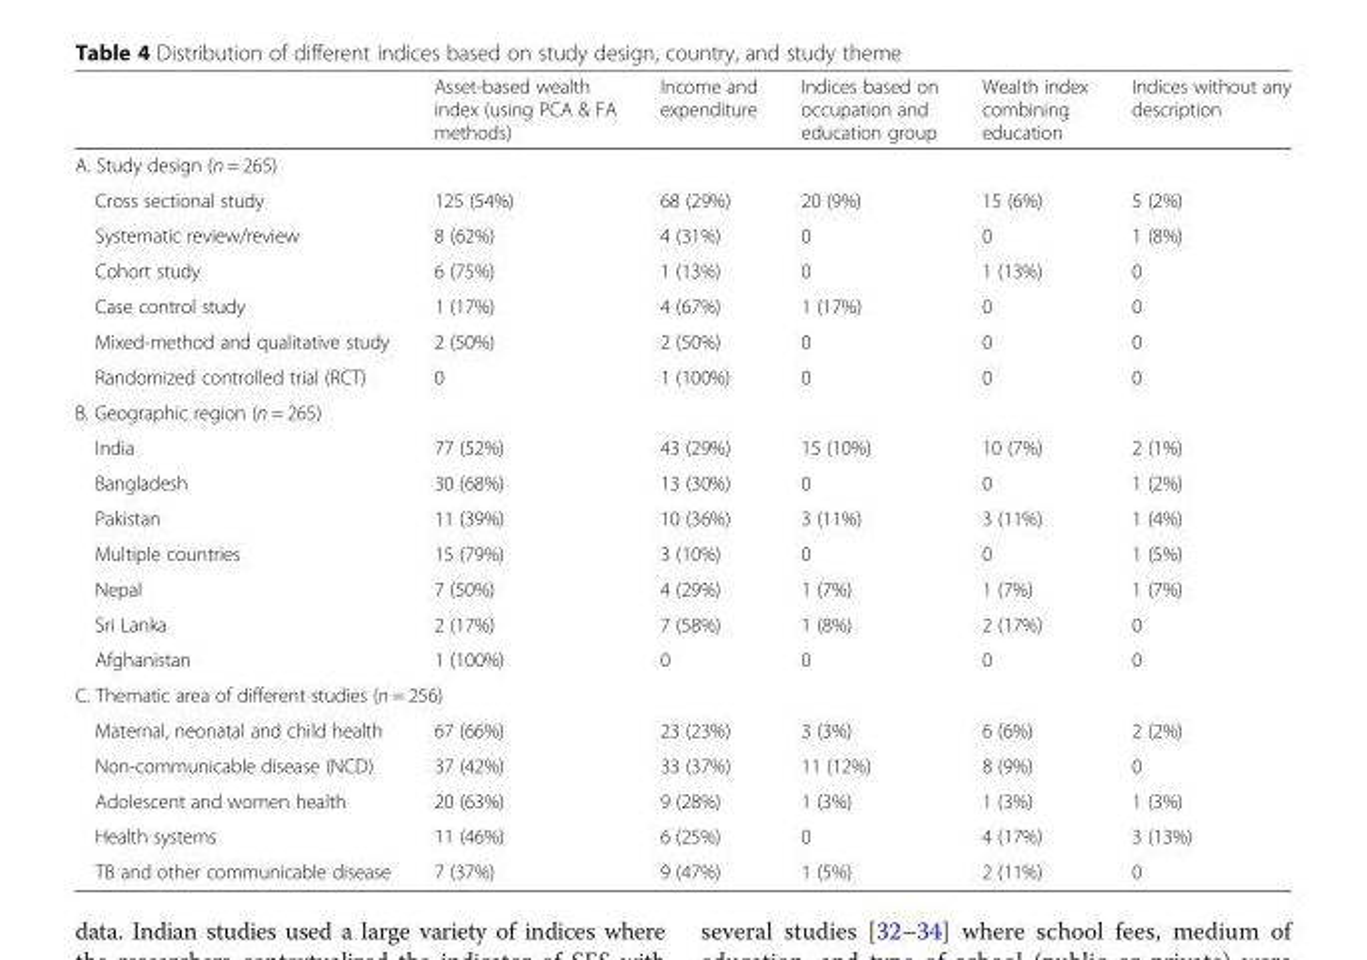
<table><thead><tr><td></td><td>Asset-based wealth index (using PCA &amp; FA methods)</td><td>Income and expenditure</td><td>Indices based on occupation and education group</td><td>Wealth index combining education</td><td>Indices without any description</td></tr></thead><tbody><tr><td colspan="6">A. Study design (n = 265)</td></tr><tr><td>Cross sectional study</td><td>125 (54%)</td><td>68 (29%)</td><td>20 (9%)</td><td>15 (6%)</td><td>5 (2%)</td></tr><tr><td>Systematic review/review</td><td>8 (62%)</td><td>4 (31%)</td><td>0</td><td>0</td><td>1 (8%)</td></tr><tr><td>Cohort study</td><td>6 (75%)</td><td>1 (13%)</td><td>0</td><td>1 (13%)</td><td>0</td></tr><tr><td>Case control study</td><td>1 (17%)</td><td>4 (67%)</td><td>1 (17%)</td><td>0</td><td>0</td></tr><tr><td>Mixed-method and qualitative study</td><td>2 (50%)</td><td>2 (50%)</td><td>0</td><td>0</td><td>0</td></tr><tr><td>Randomized controlled trial (RCT)</td><td>0</td><td>1 (100%)</td><td>0</td><td>0</td><td>0</td></tr><tr><td colspan="6">B. Geographic region (n = 265)</td></tr><tr><td>India</td><td>77 (52%)</td><td>43 (29%)</td><td>15 (10%)</td><td>10 (7%)</td><td>2 (1%)</td></tr><tr><td>Bangladesh</td><td>30 (68%)</td><td>13 (30%)</td><td>0</td><td>0</td><td>1 (2%)</td></tr><tr><td>Pakistan</td><td>11 (39%)</td><td>10 (36%)</td><td>3 (11%)</td><td>3 (11%)</td><td>1 (4%)</td></tr><tr><td>Multiple countries</td><td>15 (79%)</td><td>3 (10%)</td><td>0</td><td>0</td><td>1 (5%)</td></tr><tr><td>Nepal</td><td>7 (50%)</td><td>4 (29%)</td><td>1 (7%)</td><td>1 (7%)</td><td>1 (7%)</td></tr><tr><td>Sri Lanka</td><td>2 (17%)</td><td>7 (58%)</td><td>1 (8%)</td><td>2 (17%)</td><td>0</td></tr><tr><td>Afghanistan</td><td>1 (100%)</td><td>0</td><td>0</td><td>0</td><td>0</td></tr><tr><td colspan="6">C. Thematic area of different studies (n = 256)</td></tr><tr><td>Maternal, neonatal and child health</td><td>67 (66%)</td><td>23 (23%)</td><td>3 (3%)</td><td>6 (6%)</td><td>2 (2%)</td></tr><tr><td>Non-communicable disease (NCD)</td><td>37 (42%)</td><td>33 (37%)</td><td>11 (12%)</td><td>8 (9%)</td><td>0</td></tr><tr><td>Adolescent and women health</td><td>20 (63%)</td><td>9 (28%)</td><td>1 (3%)</td><td>1 (3%)</td><td>1 (3%)</td></tr><tr><td>Health systems</td><td>11 (46%)</td><td>6 (25%)</td><td>0</td><td>4 (17%)</td><td>3 (13%)</td></tr><tr><td>TB and other communicable disease</td><td>7 (37%)</td><td>9 (47%)</td><td>1 (5%)</td><td>2 (11%)</td><td>0</td></tr></tbody></table>